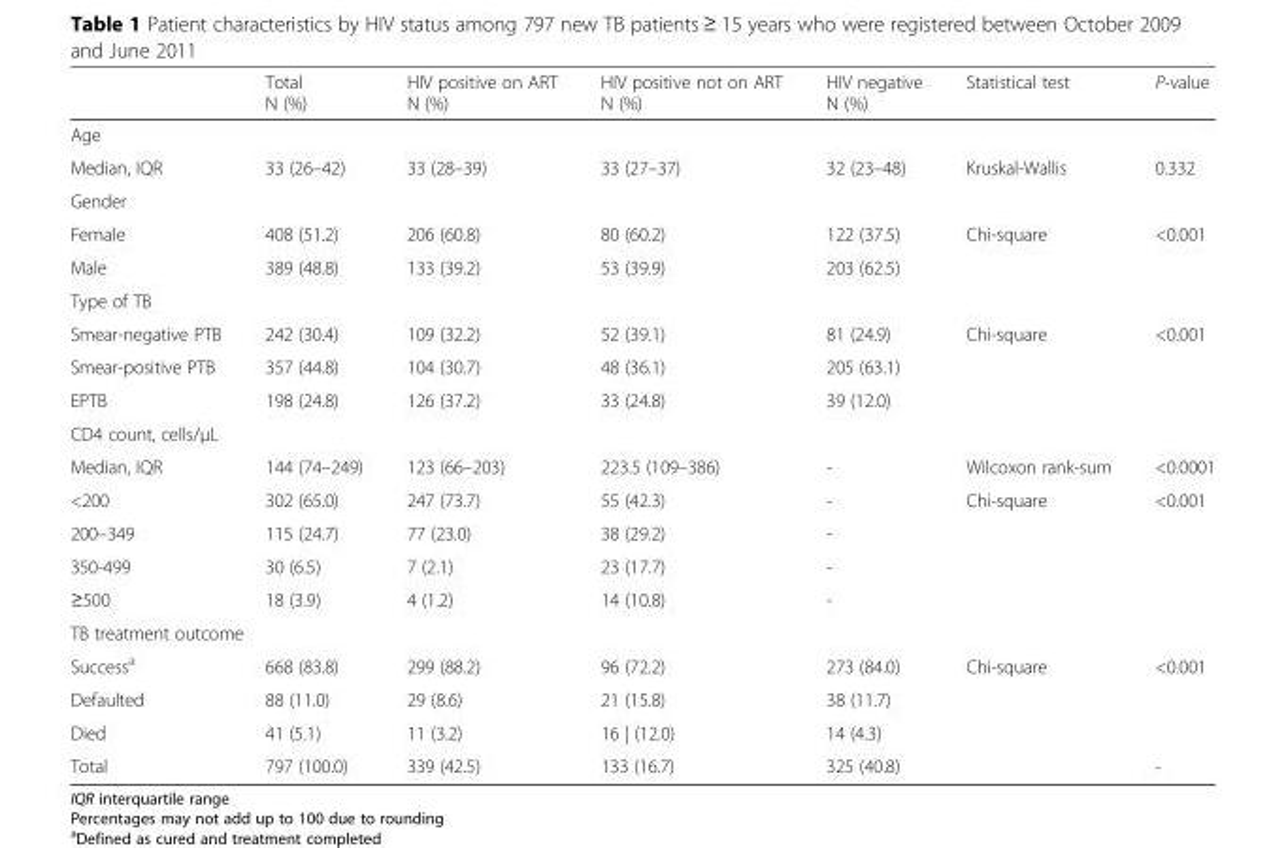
<table><thead><tr><td></td><td>Total N (%)</td><td>HIV positive on ART N (%)</td><td>HIV positive not on ART N (%)</td><td>HIV negative N (%)</td><td>Statistical test</td><td>P-value</td></tr></thead><tbody><tr><td colspan="7">Age</td></tr><tr><td>Median, IQR</td><td>33 (26–42)</td><td>33 (28–39)</td><td>33 (27–37)</td><td>32 (23–48)</td><td>Kruskal-Wallis</td><td>0.332</td></tr><tr><td colspan="7">Gender</td></tr><tr><td>Female</td><td>408 (51.2)</td><td>206 (60.8)</td><td>80 (60.2)</td><td>122 (37.5)</td><td>Chi-square</td><td>&lt;0.001</td></tr><tr><td>Male</td><td>389 (48.8)</td><td>133 (39.2)</td><td>53 (39.9)</td><td>203 (62.5)</td><td></td><td></td></tr><tr><td colspan="7">Type of TB</td></tr><tr><td>Smear-negative PTB</td><td>242 (30.4)</td><td>109 (32.2)</td><td>52 (39.1)</td><td>81 (24.9)</td><td>Chi-square</td><td>&lt;0.001</td></tr><tr><td>Smear-positive PTB</td><td>357 (44.8)</td><td>104 (30.7)</td><td>48 (36.1)</td><td>205 (63.1)</td><td></td><td></td></tr><tr><td>EPTB</td><td>198 (24.8)</td><td>126 (37.2)</td><td>33 (24.8)</td><td>39 (12.0)</td><td></td><td></td></tr><tr><td colspan="7">CD4 count, cells/μL</td></tr><tr><td>Median, IQR</td><td>144 (74–249)</td><td>123 (66–203)</td><td>223.5 (109–386)</td><td>-</td><td>Wilcoxon rank-sum</td><td>&lt;0.0001</td></tr><tr><td>&lt;200</td><td>302 (65.0)</td><td>247 (73.7)</td><td>55 (42.3)</td><td>-</td><td>Chi-square</td><td>&lt;0.001</td></tr><tr><td>200–349</td><td>115 (24.7)</td><td>77 (23.0)</td><td>38 (29.2)</td><td>-</td><td></td><td></td></tr><tr><td>350-499</td><td>30 (6.5)</td><td>7 (2.1)</td><td>23 (17.7)</td><td>-</td><td></td><td></td></tr><tr><td>≥500</td><td>18 (3.9)</td><td>4 (1.2)</td><td>14 (10.8)</td><td>-</td><td></td><td></td></tr><tr><td colspan="7">TB treatment outcome</td></tr><tr><td>Success<sup>a</sup></td><td>668 (83.8)</td><td>299 (88.2)</td><td>96 (72.2)</td><td>273 (84.0)</td><td>Chi-square</td><td>&lt;0.001</td></tr><tr><td>Defaulted</td><td>88 (11.0)</td><td>29 (8.6)</td><td>21 (15.8)</td><td>38 (11.7)</td><td></td><td></td></tr><tr><td>Died</td><td>41 (5.1)</td><td>11 (3.2)</td><td>16 | (12.0)</td><td>14 (4.3)</td><td></td><td></td></tr><tr><td>Total</td><td>797 (100.0)</td><td>339 (42.5)</td><td>133 (16.7)</td><td>325 (40.8)</td><td></td><td>-</td></tr></tbody></table>